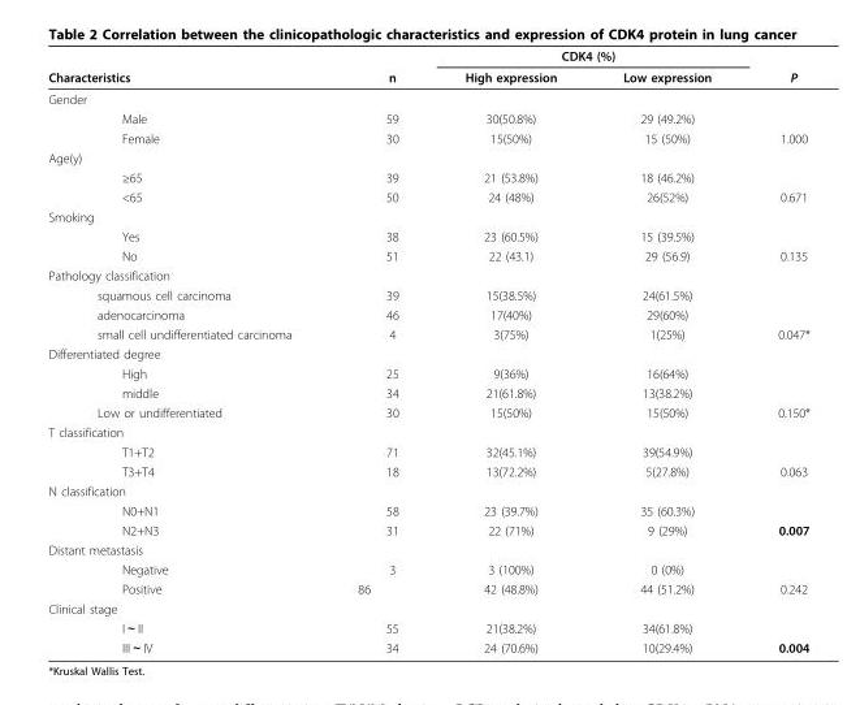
<table><thead><tr><td rowspan="2">Characteristics</td><td rowspan="2">n</td><td colspan="2">CDK4 (%)</td><td rowspan="2">P</td></tr><tr><td>High expression</td><td>Low expression</td></tr></thead><tbody><tr><td colspan="5">Gender</td></tr><tr><td>Male</td><td>59</td><td>30(50.8%)</td><td>29 (49.2%)</td><td></td></tr><tr><td>Female</td><td>30</td><td>15(50%)</td><td>15 (50%)</td><td>1.000</td></tr><tr><td colspan="5">Age(y)</td></tr><tr><td>≥65</td><td>39</td><td>21 (53.8%)</td><td>18 (46.2%)</td><td></td></tr><tr><td>&lt;65</td><td>50</td><td>24 (48%)</td><td>26(52%)</td><td>0.671</td></tr><tr><td colspan="5">Smoking</td></tr><tr><td>Yes</td><td>38</td><td>23 (60.5%)</td><td>15 (39.5%)</td><td></td></tr><tr><td>No</td><td>51</td><td>22 (43.1)</td><td>29 (56.9)</td><td>0.135</td></tr><tr><td colspan="5">Pathology classification</td></tr><tr><td>squamous cell carcinoma</td><td>39</td><td>15(38.5%)</td><td>24(61.5%)</td><td></td></tr><tr><td>adenocarcinoma</td><td>46</td><td>17(40%)</td><td>29(60%)</td><td></td></tr><tr><td>small cell undifferentiated carcinoma</td><td>4</td><td>3(75%)</td><td>1(25%)</td><td>0.047*</td></tr><tr><td colspan="5">Differentiated degree</td></tr><tr><td>High</td><td>25</td><td>9(36%)</td><td>16(64%)</td><td></td></tr><tr><td>middle</td><td>34</td><td>21(61.8%)</td><td>13(38.2%)</td><td></td></tr><tr><td>Low or undifferentiated</td><td>30</td><td>15(50%)</td><td>15(50%)</td><td>0.150*</td></tr><tr><td colspan="5">T classification</td></tr><tr><td>T1+T2</td><td>71</td><td>32(45.1%)</td><td>39(54.9%)</td><td></td></tr><tr><td>T3+T4</td><td>18</td><td>13(72.2%)</td><td>5(27.8%)</td><td>0.063</td></tr><tr><td colspan="5">N classification</td></tr><tr><td>N0+N1</td><td>58</td><td>23 (39.7%)</td><td>35 (60.3%)</td><td></td></tr><tr><td>N2+N3</td><td>31</td><td>22 (71%)</td><td>9 (29%)</td><td>0.007</td></tr><tr><td colspan="5">Distant metastasis</td></tr><tr><td>Negative</td><td>3</td><td>3 (100%)</td><td>0 (0%)</td><td></td></tr><tr><td>Positive</td><td>86</td><td>42 (48.8%)</td><td>44 (51.2%)</td><td>0.242</td></tr><tr><td colspan="5">Clinical stage</td></tr><tr><td>I～II</td><td>55</td><td>21(38.2%)</td><td>34(61.8%)</td><td></td></tr><tr><td>III～IV</td><td>34</td><td>24 (70.6%)</td><td>10(29.4%)</td><td>0.004</td></tr></tbody></table>